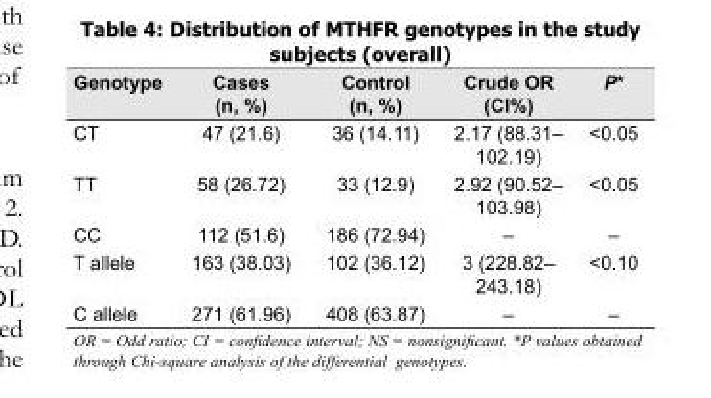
<table><thead><tr><td>Genotype</td><td>Cases (n, %)</td><td>Control (n, %)</td><td>Crude OR (CI%)</td><td>P*</td></tr></thead><tbody><tr><td>CT</td><td>47 (21.6)</td><td>36 (14.11)</td><td>2.17 (88.31– 102.19)</td><td>&lt;0.05</td></tr><tr><td>TT</td><td>58 (26.72)</td><td>33 (12.9)</td><td>2.92 (90.52– 103.98)</td><td>&lt;0.05</td></tr><tr><td>CC</td><td>112 (51.6)</td><td>186 (72.94)</td><td>–</td><td>–</td></tr><tr><td>T allele</td><td>163 (38.03)</td><td>102 (36.12)</td><td>3 (228.82– 243.18)</td><td>&lt;0.10</td></tr><tr><td>C allele</td><td>271 (61.96)</td><td>408 (63.87)</td><td>–</td><td>–</td></tr></tbody></table>